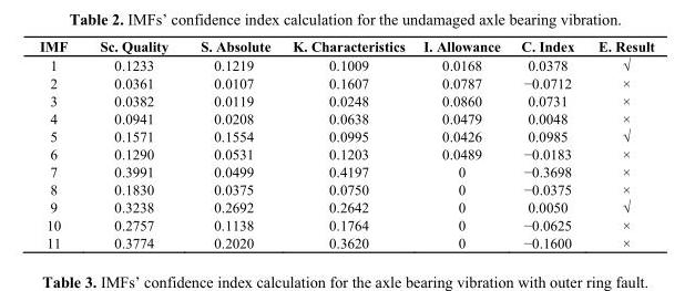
<table><thead><tr><td>IMF</td><td>Sc. Quality</td><td>S. Absolute</td><td>K. Characteristics</td><td>I. Allowance</td><td>C. Index</td><td>E. Result</td></tr></thead><tbody><tr><td>1</td><td>0.1233</td><td>0.1219</td><td>0.1009</td><td>0.0168</td><td>0.0378</td><td>√</td></tr><tr><td>2</td><td>0.0361</td><td>0.0107</td><td>0.1607</td><td>0.0787</td><td>−0.0712</td><td>×</td></tr><tr><td>3</td><td>0.0382</td><td>0.0119</td><td>0.0248</td><td>0.0860</td><td>0.0731</td><td>×</td></tr><tr><td>4</td><td>0.0941</td><td>0.0208</td><td>0.0638</td><td>0.0479</td><td>0.0048</td><td>×</td></tr><tr><td>5</td><td>0.1571</td><td>0.1554</td><td>0.0995</td><td>0.0426</td><td>0.0985</td><td>√</td></tr><tr><td>6</td><td>0.1290</td><td>0.0531</td><td>0.1203</td><td>0.0489</td><td>−0.0183</td><td>×</td></tr><tr><td>7</td><td>0.3991</td><td>0.0499</td><td>0.4197</td><td>0</td><td>−0.3698</td><td>×</td></tr><tr><td>8</td><td>0.1830</td><td>0.0375</td><td>0.0750</td><td>0</td><td>−0.0375</td><td>×</td></tr><tr><td>9</td><td>0.3238</td><td>0.2692</td><td>0.2642</td><td>0</td><td>0.0050</td><td>√</td></tr><tr><td>10</td><td>0.2757</td><td>0.1138</td><td>0.1764</td><td>0</td><td>−0.0625</td><td>×</td></tr><tr><td>11</td><td>0.3774</td><td>0.2020</td><td>0.3620</td><td>0</td><td>−0.1600</td><td>×</td></tr></tbody></table>